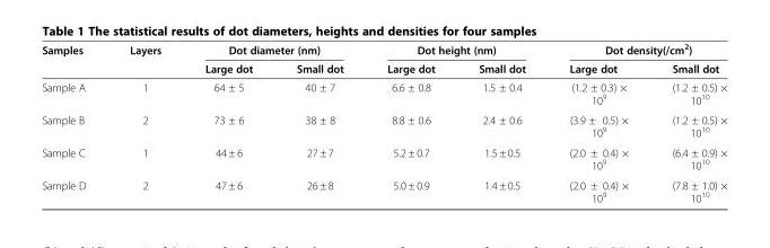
<table><thead><tr><td rowspan="2">Samples</td><td rowspan="2">Layers</td><td colspan="2">Dot diameter (nm)</td><td colspan="2">Dot height (nm)</td><td colspan="2">Dot density(/cm<sup>2</sup>)</td></tr><tr><td>Large dot</td><td>Small dot</td><td>Large dot</td><td>Small dot</td><td>Large dot</td><td>Small dot</td></tr></thead><tbody><tr><td>Sample A</td><td>1</td><td>64 ± 5</td><td>40 ± 7</td><td>6.6 ± 0.8</td><td>1.5 ± 0.4</td><td>(1.2 ± 0.3) × 10<sup>9</sup></td><td>(1.2 ± 0.5) × 10<sup>10</sup></td></tr><tr><td>Sample B</td><td>2</td><td>73 ± 6</td><td>38 ± 8</td><td>8.8 ± 0.6</td><td>2.4 ± 0.6</td><td>(3.9 ± 0.5) × 10<sup>9</sup></td><td>(1.2 ± 0.5) × 10<sup>10</sup></td></tr><tr><td>Sample C</td><td>1</td><td>44 ± 6</td><td>27 ± 7</td><td>5.2 ± 0.7</td><td>1.5 ± 0.5</td><td>(2.0 ± 0.4) × 10<sup>9</sup></td><td>(6.4 ± 0.9) × 10<sup>10</sup></td></tr><tr><td>Sample D</td><td>2</td><td>47 ± 6</td><td>26 ± 8</td><td>5.0 ± 0.9</td><td>1.4 ± 0.5</td><td>(2.0 ± 0.4) × 10<sup>9</sup></td><td>(7.8 ± 1.0) × 10<sup>10</sup></td></tr></tbody></table>